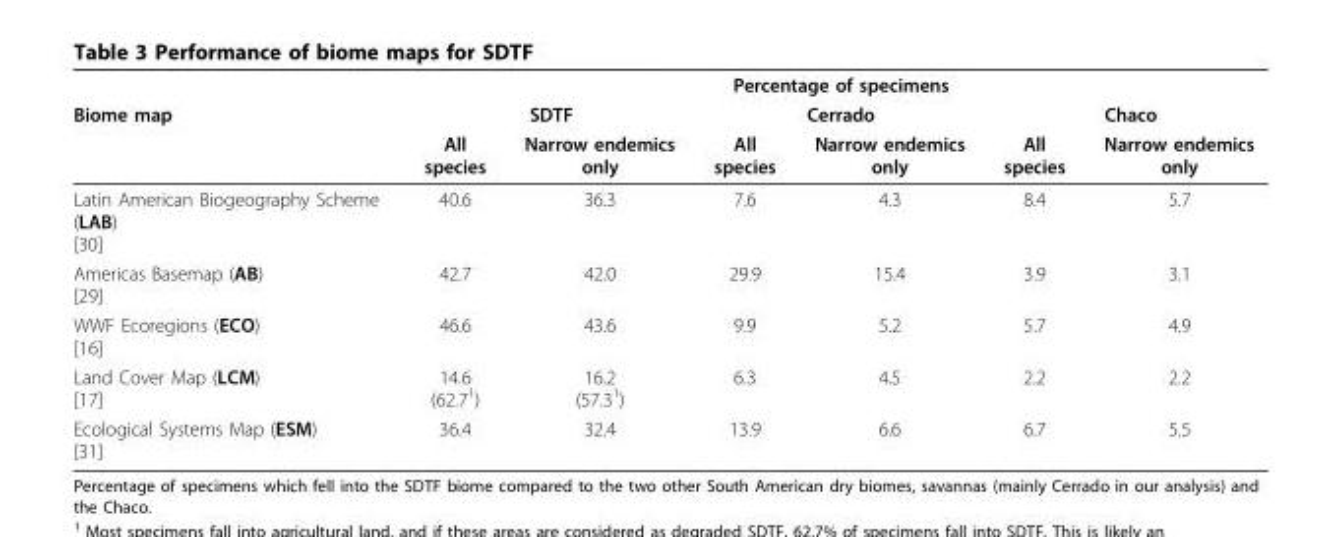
<table><thead><tr><td rowspan="3">Biome map</td><td colspan="6">Percentage of specimens</td></tr><tr><td colspan="2">SDTF</td><td colspan="2">Cerrado</td><td colspan="2">Chaco</td></tr><tr><td>All species</td><td>Narrow endemics only</td><td>All species</td><td>Narrow endemics only</td><td>All species</td><td>Narrow endemics only</td></tr></thead><tbody><tr><td>Latin American Biogeography Scheme (LAB) [30]</td><td>40.6</td><td>36.3</td><td>7.6</td><td>4.3</td><td>8.4</td><td>5.7</td></tr><tr><td>Americas Basemap (AB) [29]</td><td>42.7</td><td>42.0</td><td>29.9</td><td>15.4</td><td>3.9</td><td>3.1</td></tr><tr><td>WWF Ecoregions (ECO) [16]</td><td>46.6</td><td>43.6</td><td>9.9</td><td>5.2</td><td>5.7</td><td>4.9</td></tr><tr><td>Land Cover Map (LCM) [17]</td><td>14.6 (62.7<sup>1</sup>)</td><td>16.2 (57.3<sup>1</sup>)</td><td>6.3</td><td>4.5</td><td>2.2</td><td>2.2</td></tr><tr><td>Ecological Systems Map (ESM) [31]</td><td>36.4</td><td>32.4</td><td>13.9</td><td>6.6</td><td>6.7</td><td>5.5</td></tr></tbody></table>